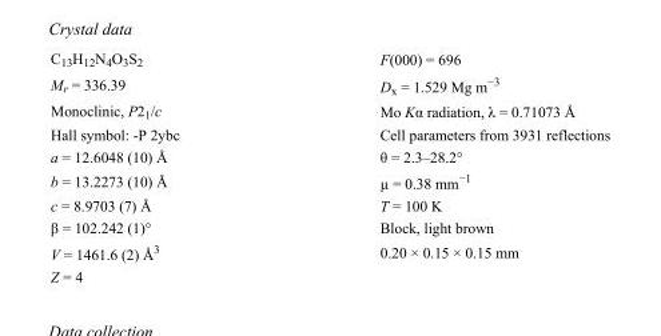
<table><tbody><tr><td>C<sub>13</sub>H<sub>12</sub>N<sub>4</sub>O<sub>3</sub>S<sub>2</sub></td><td>F(000) = 696</td></tr><tr><td>M<sub>r</sub> = 336.39</td><td>D<sub>x</sub> = 1.529 Mg m<sup>−3</sup></td></tr><tr><td>Monoclinic, P2<sub>1</sub>/c</td><td>Mo Kα radiation, λ = 0.71073 Å</td></tr><tr><td>Hall symbol: -P 2ybc</td><td>Cell parameters from 3931 reflections</td></tr><tr><td>a = 12.6048 (10) Å</td><td>θ = 2.3–28.2°</td></tr><tr><td>b = 13.2273 (10) Å</td><td>µ = 0.38 mm<sup>−1</sup></td></tr><tr><td>c = 8.9703 (7) Å</td><td>T = 100 K</td></tr><tr><td>β = 102.242 (1)°</td><td>Block, light brown</td></tr><tr><td>V = 1461.6 (2) Å<sup>3</sup></td><td>0.20 × 0.15 × 0.15 mm</td></tr><tr><td>Z = 4</td><td></td></tr></tbody></table>